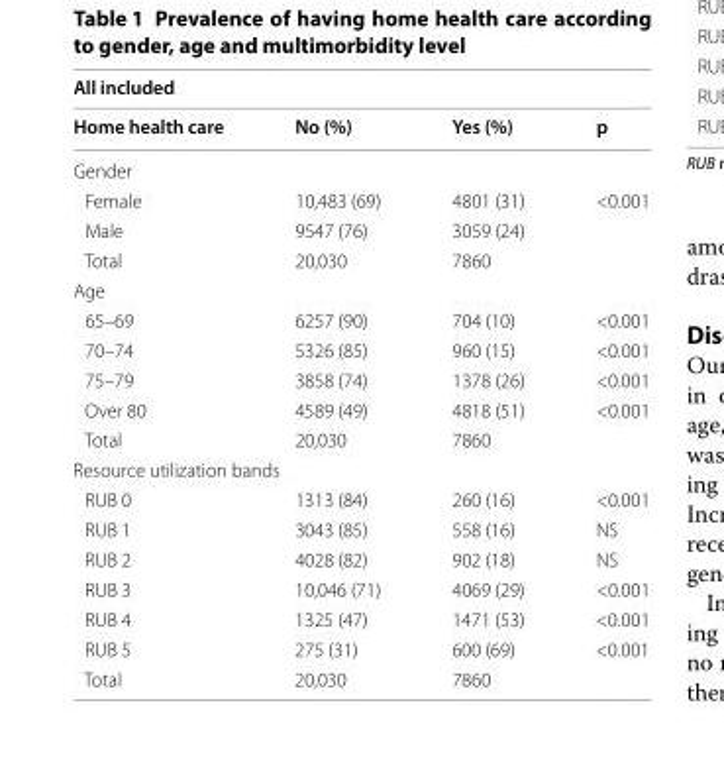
<table><thead><tr><td colspan="4">All included</td></tr><tr><td>Home health care</td><td>No (%)</td><td>Yes (%)</td><td>p</td></tr></thead><tbody><tr><td colspan="4">Gender</td></tr><tr><td>Female</td><td>10,483 (69)</td><td>4801 (31)</td><td>&lt;0.001</td></tr><tr><td>Male</td><td>9547 (76)</td><td>3059 (24)</td><td></td></tr><tr><td>Total</td><td>20,030</td><td>7860</td><td></td></tr><tr><td colspan="4">Age</td></tr><tr><td>65–69</td><td>6257 (90)</td><td>704 (10)</td><td>&lt;0.001</td></tr><tr><td>70–74</td><td>5326 (85)</td><td>960 (15)</td><td>&lt;0.001</td></tr><tr><td>75–79</td><td>3858 (74)</td><td>1378 (26)</td><td>&lt;0.001</td></tr><tr><td>Over 80</td><td>4589 (49)</td><td>4818 (51)</td><td>&lt;0.001</td></tr><tr><td>Total</td><td>20,030</td><td>7860</td><td></td></tr><tr><td colspan="4">Resource utilization bands</td></tr><tr><td>RUB 0</td><td>1313 (84)</td><td>260 (16)</td><td>&lt;0.001</td></tr><tr><td>RUB 1</td><td>3043 (85)</td><td>558 (16)</td><td>NS</td></tr><tr><td>RUB 2</td><td>4028 (82)</td><td>902 (18)</td><td>NS</td></tr><tr><td>RUB 3</td><td>10,046 (71)</td><td>4069 (29)</td><td>&lt;0.001</td></tr><tr><td>RUB 4</td><td>1325 (47)</td><td>1471 (53)</td><td>&lt;0.001</td></tr><tr><td>RUB 5</td><td>275 (31)</td><td>600 (69)</td><td>&lt;0.001</td></tr><tr><td>Total</td><td>20,030</td><td>7860</td><td></td></tr></tbody></table>